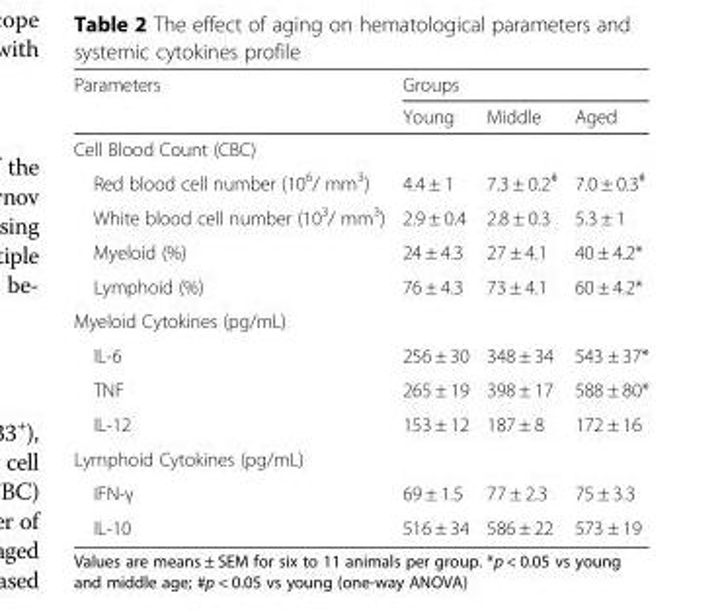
<table><thead><tr><td rowspan="2">Parameters</td><td colspan="3">Groups</td></tr><tr><td>Young</td><td>Middle</td><td>Aged</td></tr></thead><tbody><tr><td colspan="4">Cell Blood Count (CBC)</td></tr><tr><td>Red blood cell number (10<sup>6</sup>/ mm<sup>3</sup>)</td><td>4.4 ± 1</td><td>7.3 ± 0.2<sup>#</sup></td><td>7.0 ± 0.3<sup>#</sup></td></tr><tr><td>White blood cell number (10<sup>3</sup>/ mm<sup>3</sup>)</td><td>2.9 ± 0.4</td><td>2.8 ± 0.3</td><td>5.3 ± 1</td></tr><tr><td>Myeloid (%)</td><td>24 ± 4.3</td><td>27 ± 4.1</td><td>40 ± 4.2*</td></tr><tr><td>Lymphoid (%)</td><td>76 ± 4.3</td><td>73 ± 4.1</td><td>60 ± 4.2*</td></tr><tr><td colspan="4">Myeloid Cytokines (pg/mL)</td></tr><tr><td>IL-6</td><td>256 ± 30</td><td>348 ± 34</td><td>543 ± 37*</td></tr><tr><td>TNF</td><td>265 ± 19</td><td>398 ± 17</td><td>588 ± 80*</td></tr><tr><td>IL-12</td><td>153 ± 12</td><td>187 ± 8</td><td>172 ± 16</td></tr><tr><td colspan="4">Lymphoid Cytokines (pg/mL)</td></tr><tr><td>IFN-γ</td><td>69 ± 1.5</td><td>77 ± 2.3</td><td>75 ± 3.3</td></tr><tr><td>IL-10</td><td>516 ± 34</td><td>586 ± 22</td><td>573 ± 19</td></tr></tbody></table>